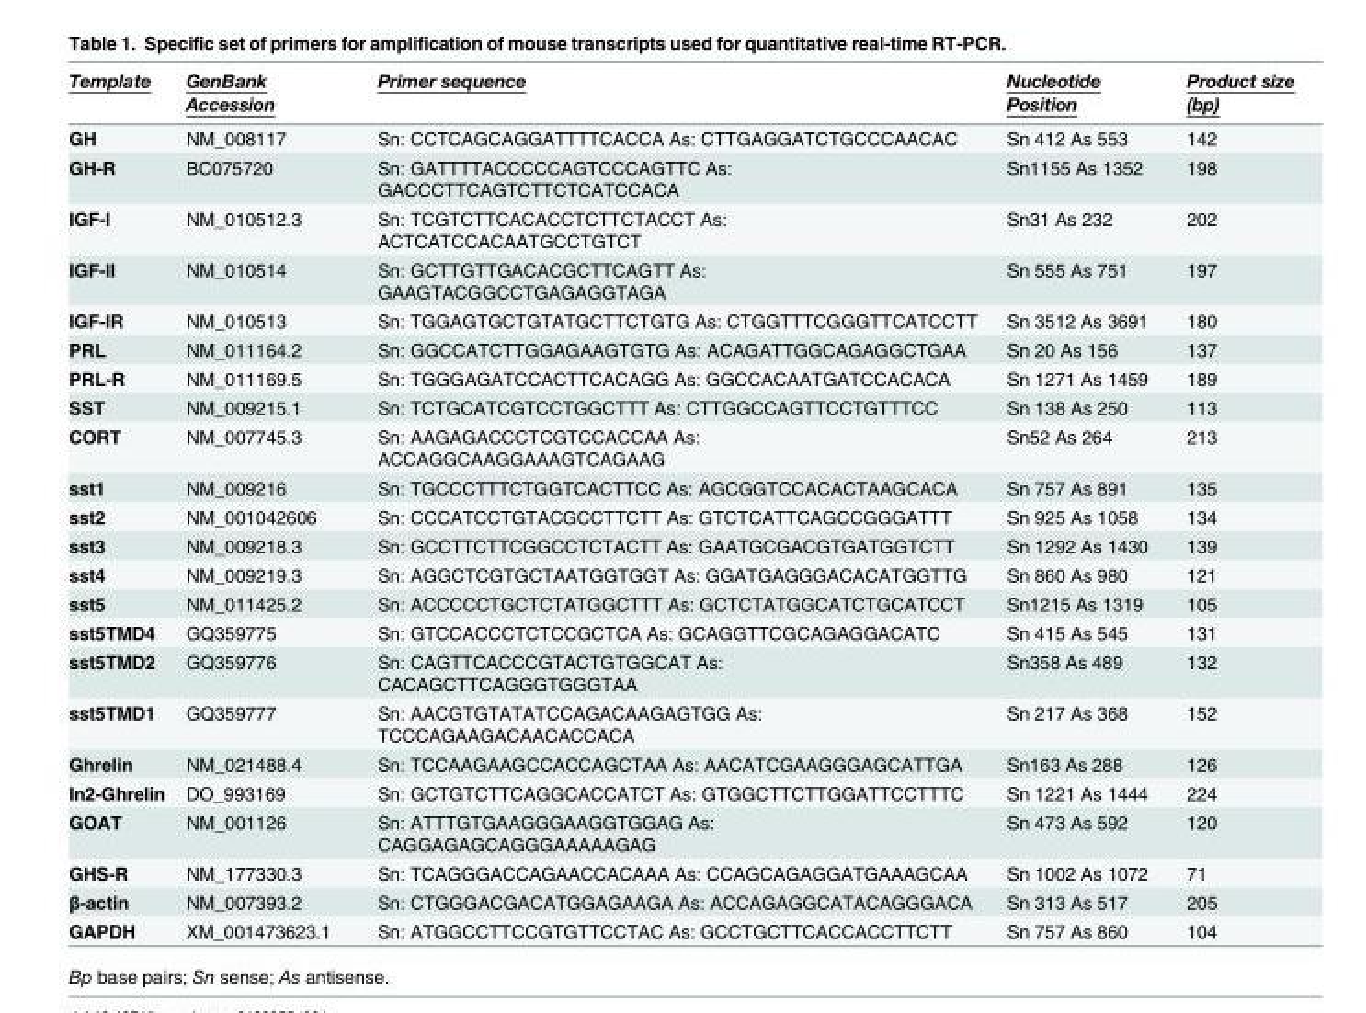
<table><thead><tr><td>Template</td><td>GenBank Accession</td><td>Primer sequence</td><td>Nucleotide Position</td><td>Product size (bp)</td></tr></thead><tbody><tr><td>GH</td><td>NM_008117</td><td>Sn: CCTCAGCAGGATTTTCACCA As: CTTGAGGATCTGCCCAACAC</td><td>Sn 412 As 553</td><td>142</td></tr><tr><td>GH-R</td><td>BC075720</td><td>Sn: GATTTTACCCCCAGTCCCAGTTC As: GACCCTTCAGTCTTCTCATCCACA</td><td>Sn1155 As 1352</td><td>198</td></tr><tr><td>IGF-I</td><td>NM_010512.3</td><td>Sn: TCGTCTTCACACCTCTTCTACCT As: ACTCATCCACAATGCCTGTCT</td><td>Sn31 As 232</td><td>202</td></tr><tr><td>IGF-II</td><td>NM_010514</td><td>Sn: GCTTGTTGACACGCTTCAGTT As: GAAGTACGGCCTGAGAGGTAGA</td><td>Sn 555 As 751</td><td>197</td></tr><tr><td>IGF-IR</td><td>NM_010513</td><td>Sn: TGGAGTGCTGTATGCTTCTGTG As: CTGGTTTCGGGTTCATCCTT</td><td>Sn 3512 As 3691</td><td>180</td></tr><tr><td>PRL</td><td>NM_011164.2</td><td>Sn: GGCCATCTTGGAGAAGTGTG As: ACAGATTGGCAGAGGCTGAA</td><td>Sn 20 As 156</td><td>137</td></tr><tr><td>PRL-R</td><td>NM_011169.5</td><td>Sn: TGGGAGATCCACTTCACAGG As: GGCCACAATGATCCACACA</td><td>Sn 1271 As 1459</td><td>189</td></tr><tr><td>SST</td><td>NM_009215.1</td><td>Sn: TCTGCATCGTCCTGGCTTT As: CTTGGCCAGTTCCTGTTTCC</td><td>Sn 138 As 250</td><td>113</td></tr><tr><td>CORT</td><td>NM_007745.3</td><td>Sn: AAGAGACCCTCGTCCACCAA As: ACCAGGCAAGGAAAGTCAGAAG</td><td>Sn52 As 264</td><td>213</td></tr><tr><td>sst1</td><td>NM_009216</td><td>Sn: TGCCCTTTCTGGTCACTTCC As: AGCGGTCCACACTAAGCACA</td><td>Sn 757 As 891</td><td>135</td></tr><tr><td>sst2</td><td>NM_001042606</td><td>Sn: CCCATCCTGTACGCCTTCTT As: GTCTCATTCAGCCGGGATTT</td><td>Sn 925 As 1058</td><td>134</td></tr><tr><td>sst3</td><td>NM_009218.3</td><td>Sn: GCCTTCTTCGGCCTCTACTT As: GAATGCGACGTGATGGTCTT</td><td>Sn 1292 As 1430</td><td>139</td></tr><tr><td>sst4</td><td>NM_009219.3</td><td>Sn: AGGCTCGTGCTAATGGTGGT As: GGATGAGGGACACATGGTTG</td><td>Sn 860 As 980</td><td>121</td></tr><tr><td>sst5</td><td>NM_011425.2</td><td>Sn: ACCCCCTGCTCTATGGCTTT As: GCTCTATGGCATCTGCATCCT</td><td>Sn1215 As 1319</td><td>105</td></tr><tr><td>sst5TMD4</td><td>GQ359775</td><td>Sn: GTCCACCCTCTCCGCTCA As: GCAGGTTCGCAGAGGACATC</td><td>Sn 415 As 545</td><td>131</td></tr><tr><td>sst5TMD2</td><td>GQ359776</td><td>Sn: CAGTTCACCCGTACTGTGGCAT As: CACAGCTTCAGGGTGGGTAA</td><td>Sn358 As 489</td><td>132</td></tr><tr><td>sst5TMD1</td><td>GQ359777</td><td>Sn: AACGTGTATATCCAGACAAGAGTGG As: TCCCAGAAGACAACACCACA</td><td>Sn 217 As 368</td><td>152</td></tr><tr><td>Ghrelin</td><td>NM_021488.4</td><td>Sn: TCCAAGAAGCCACCAGCTAA As: AACATCGAAGGGAGCATTGA</td><td>Sn163 As 288</td><td>126</td></tr><tr><td>In2-Ghrelin</td><td>DO_993169</td><td>Sn: GCTGTCTTCAGGCACCATCT As: GTGGCTTCTTGGATTCCTTTC</td><td>Sn 1221 As 1444</td><td>224</td></tr><tr><td>GOAT</td><td>NM_001126</td><td>Sn: ATTTGTGAAGGGAAGGTGGAG As: CAGGAGAGCAGGGAAAAAGAG</td><td>Sn 473 As 592</td><td>120</td></tr><tr><td>GHS-R</td><td>NM_177330.3</td><td>Sn: TCAGGGACCAGAACCACAAA As: CCAGCAGAGGATGAAAGCAA</td><td>Sn 1002 As 1072</td><td>71</td></tr><tr><td>β-actin</td><td>NM_007393.2</td><td>Sn: CTGGGACGACATGGAGAAGA As: ACCAGAGGCATACAGGGACA</td><td>Sn 313 As 517</td><td>205</td></tr><tr><td>GAPDH</td><td>XM_001473623.1</td><td>Sn: ATGGCCTTCCGTGTTCCTAC As: GCCTGCTTCACCACCTTCTT</td><td>Sn 757 As 860</td><td>104</td></tr></tbody></table>